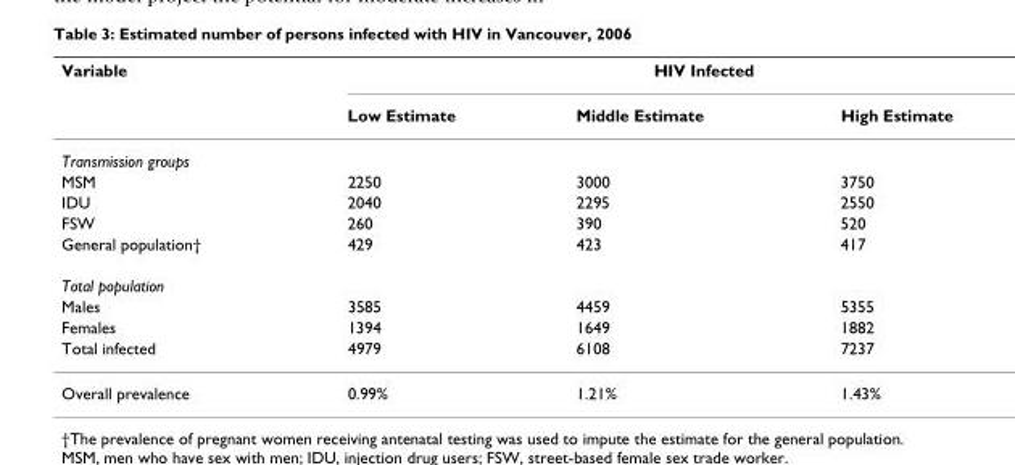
<table><thead><tr><td rowspan="2">Variable</td><td colspan="3">HIV Infected</td></tr><tr><td>Low Estimate</td><td>Middle Estimate</td><td>High Estimate</td></tr></thead><tbody><tr><td colspan="4">Transmission groups</td></tr><tr><td>MSM</td><td>2250</td><td>3000</td><td>3750</td></tr><tr><td>IDU</td><td>2040</td><td>2295</td><td>2550</td></tr><tr><td>FSW</td><td>260</td><td>390</td><td>520</td></tr><tr><td>General population†</td><td>429</td><td>423</td><td>417</td></tr><tr><td colspan="4">Total population</td></tr><tr><td>Males</td><td>3585</td><td>4459</td><td>5355</td></tr><tr><td>Females</td><td>1394</td><td>1649</td><td>1882</td></tr><tr><td>Total infected</td><td>4979</td><td>6108</td><td>7237</td></tr><tr><td>Overall prevalence</td><td>0.99%</td><td>1.21%</td><td>1.43%</td></tr></tbody></table>